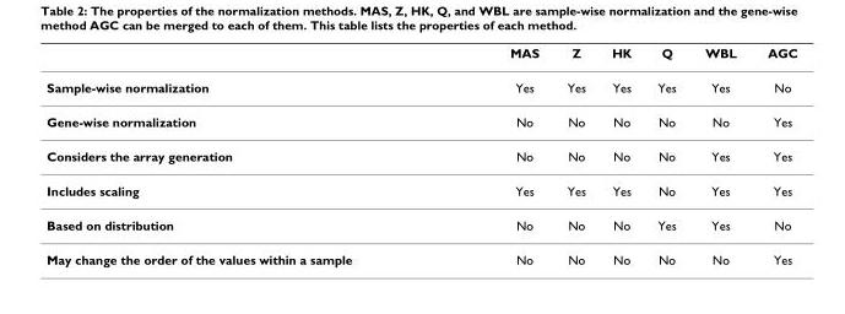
<table><thead><tr><td></td><td>MAS</td><td>Z</td><td>HK</td><td>Q</td><td>WBL</td><td>AGC</td></tr></thead><tbody><tr><td>Sample-wise normalization</td><td>Yes</td><td>Yes</td><td>Yes</td><td>Yes</td><td>Yes</td><td>No</td></tr><tr><td>Gene-wise normalization</td><td>No</td><td>No</td><td>No</td><td>No</td><td>No</td><td>Yes</td></tr><tr><td>Considers the array generation</td><td>No</td><td>No</td><td>No</td><td>No</td><td>Yes</td><td>Yes</td></tr><tr><td>Includes scaling</td><td>Yes</td><td>Yes</td><td>Yes</td><td>No</td><td>Yes</td><td>Yes</td></tr><tr><td>Based on distribution</td><td>No</td><td>No</td><td>No</td><td>Yes</td><td>Yes</td><td>No</td></tr><tr><td>May change the order of the values within a sample</td><td>No</td><td>No</td><td>No</td><td>No</td><td>No</td><td>Yes</td></tr></tbody></table>